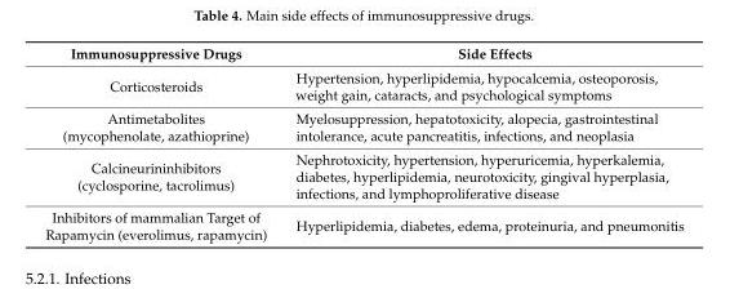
<table><thead><tr><td>Immunosuppressive Drugs</td><td>Side Effects</td></tr></thead><tbody><tr><td>Corticosteroids</td><td>Hypertension, hyperlipidemia, hypocalcemia, osteoporosis, weight gain, cataracts, and psychological symptoms</td></tr><tr><td>Antimetabolites (mycophenolate, azathioprine)</td><td>Myelosuppression, hepatotoxicity, alopecia, gastrointestinal intolerance, acute pancreatitis, infections, and neoplasia</td></tr><tr><td>Calcineurininhibitors (cyclosporine, tacrolimus)</td><td>Nephrotoxicity, hypertension, hyperuricemia, hyperkalemia, diabetes, hyperlipidemia, neurotoxicity, gingival hyperplasia, infections, and lymphoproliferative disease</td></tr><tr><td>Inhibitors of mammalian Target of Rapamycin (everolimus, rapamycin)</td><td>Hyperlipidemia, diabetes, edema, proteinuria, and pneumonitis</td></tr></tbody></table>